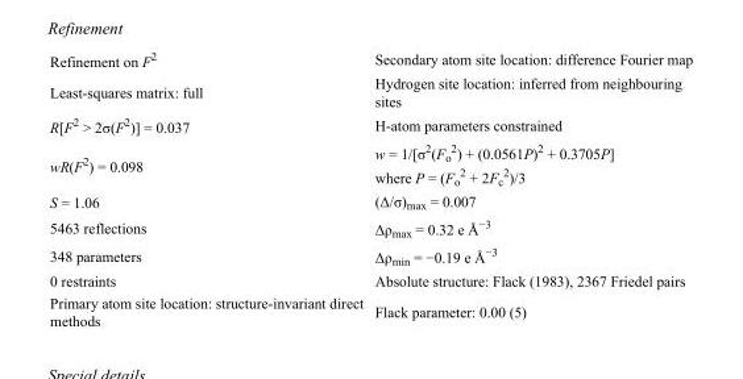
<table><tbody><tr><td>Refinement on F<sup>2</sup></td><td>Secondary atom site location: difference Fourier map</td></tr><tr><td>Least-squares matrix: full</td><td>Hydrogen site location: inferred from neighbouring sites</td></tr><tr><td>R[F<sup>2</sup> &gt; 2σ(F<sup>2</sup>)] = 0.037</td><td>H-atom parameters constrained</td></tr><tr><td>wR(F<sup>2</sup>) = 0.098</td><td>w = 1/[σ<sup>2</sup>(F<sub>o</sub> <sup>2</sup>) + (0.0561P)<sup>2</sup> + 0.3705P] where P = (F<sub>o</sub> <sup>2</sup> + 2F<sub>c</sub> <sup>2</sup>)/3</td></tr><tr><td>S = 1.06</td><td>(Δ/σ)<sub>max</sub> = 0.007</td></tr><tr><td>5463 reflections</td><td>Δρ<sub>max</sub> = 0.32 e Å<sup>−3</sup></td></tr><tr><td>348 parameters</td><td>Δρ<sub>min</sub> = −0.19 e Å<sup>−3</sup></td></tr><tr><td>0 restraints</td><td>Absolute structure: Flack (1983), 2367 Friedel pairs</td></tr><tr><td>Primary atom site location: structure-invariant direct methods</td><td>Flack parameter: 0.00 (5)</td></tr></tbody></table>